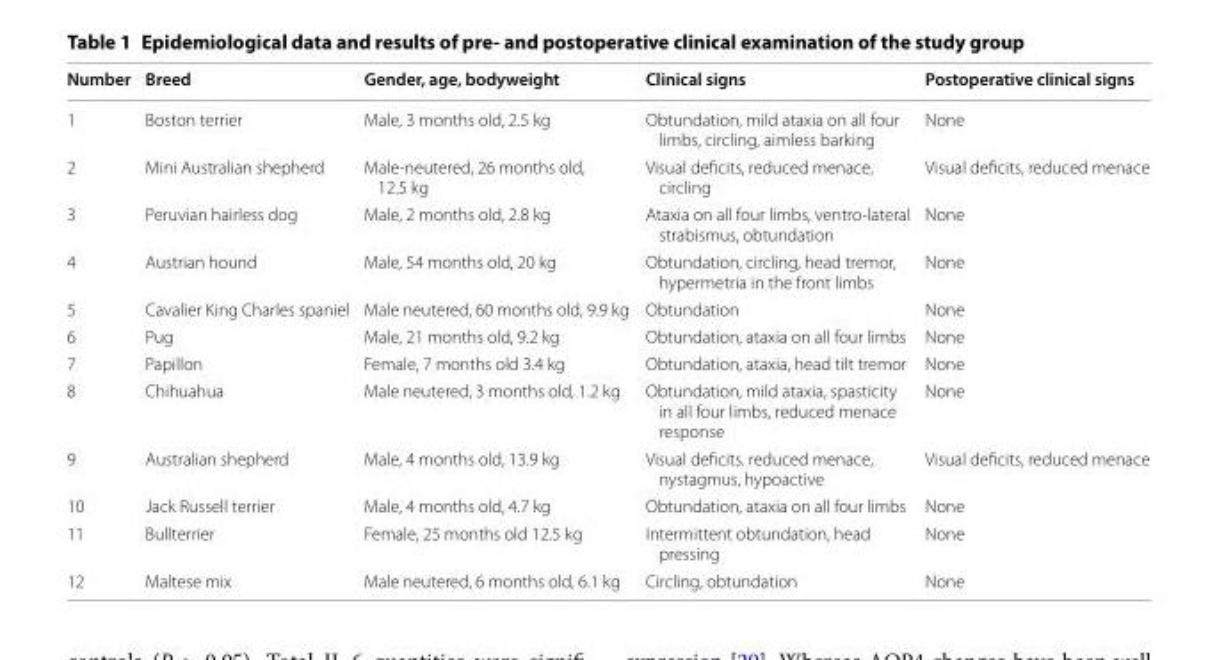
<table><thead><tr><td>Number</td><td>Breed</td><td>Gender, age, bodyweight</td><td>Clinical signs</td><td>Postoperative clinical signs</td></tr></thead><tbody><tr><td>1</td><td>Boston terrier</td><td>Male, 3 months old, 2.5 kg</td><td>Obtundation, mild ataxia on all four limbs, circling, aimless barking</td><td>None</td></tr><tr><td>2</td><td>Mini Australian shepherd</td><td>Male-neutered, 26 months old, 12.5 kg</td><td>Visual deficits, reduced menace, circling</td><td>Visual deficits, reduced menace</td></tr><tr><td>3</td><td>Peruvian hairless dog</td><td>Male, 2 months old, 2.8 kg</td><td>Ataxia on all four limbs, ventro-lateral strabismus, obtundation</td><td>None</td></tr><tr><td>4</td><td>Austrian hound</td><td>Male, 54 months old, 20 kg</td><td>Obtundation, circling, head tremor, hypermetria in the front limbs</td><td>None</td></tr><tr><td>5</td><td>Cavalier King Charles spaniel</td><td>Male neutered, 60 months old, 9.9 kg</td><td>Obtundation</td><td>None</td></tr><tr><td>6</td><td>Pug</td><td>Male, 21 months old, 9.2 kg</td><td>Obtundation, ataxia on all four limbs</td><td>None</td></tr><tr><td>7</td><td>Papillon</td><td>Female, 7 months old 3.4 kg</td><td>Obtundation, ataxia, head tilt tremor</td><td>None</td></tr><tr><td>8</td><td>Chihuahua</td><td>Male neutered, 3 months old, 1.2 kg</td><td>Obtundation, mild ataxia, spasticity in all four limbs, reduced menace response</td><td>None</td></tr><tr><td>9</td><td>Australian shepherd</td><td>Male, 4 months old, 13.9 kg</td><td>Visual deficits. reduced menace, nystagmus, hypoactive</td><td>Visual deficits, reduced menace</td></tr><tr><td>10</td><td>Jack Russell terrier</td><td>Male, 4 months old, 4.7 kg</td><td>Obtundation, ataxia on all four limbs</td><td>None</td></tr><tr><td>11</td><td>Bullterrier</td><td>Female, 25 months old 12.5 kg</td><td>Intermittent obtundation, head pressing</td><td>None</td></tr><tr><td>12</td><td>Maltese mix</td><td>Male neutered, 6 months old, 6.1 kg</td><td>Circling, obtundation</td><td>None</td></tr></tbody></table>